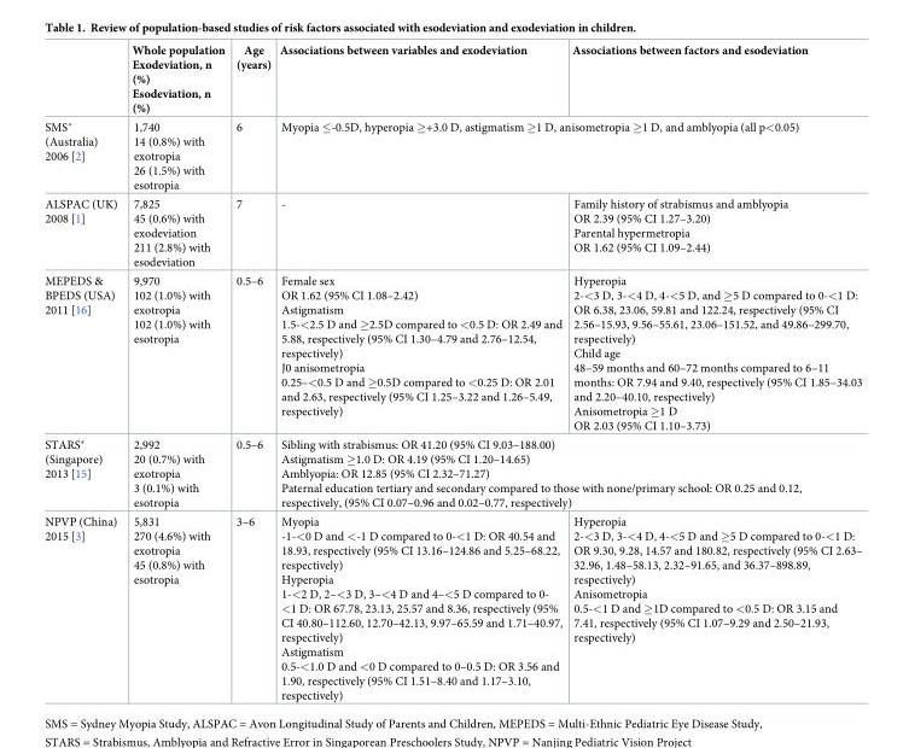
<table><thead><tr><td></td><td>Whole population Exodeviation, n (%) Esodeviation, n (%)</td><td>Age (years)</td><td>Associations between variables and exodeviation</td><td>Associations between factors and esodeviation</td></tr></thead><tbody><tr><td>SMS* (Australia) 2006 [2]</td><td>1,740 14 (0.8%) with exotropia 26 (1.5%) with esotropia</td><td>6</td><td colspan="2">Myopia ≤-0.5D, hyperopia ≥+3.0 D, astigmatism ≥1 D, anisometropia ≥1 D, and amblyopia (all p&lt;0.05)</td></tr><tr><td>ALSPAC (UK) 2008 [1]</td><td>7,825 45 (0.6%) with exodeviation 211 (2.8%) with esodeviation</td><td>7</td><td>-</td><td>Family history of strabismus and amblyopia OR 2.39 (95% CI 1.27–3.20) Parental hypermetropia OR 1.62 (95% CI 1.09–2.44)</td></tr><tr><td>MEPEDS &amp; BPEDS (USA) 2011 [16]</td><td>9,970 102 (1.0%) with exotropia 102 (1.0%) with esotropia</td><td>0.5–6</td><td>Female sex OR 1.62 (95% CI 1.08–2.42) Astigmatism 1.5-&lt;2.5 D and ≥2.5D compared to &lt;0.5 D: OR 2.49 and 5.88, respectively (95% CI 1.30–4.79 and 2.76–12.54, respectively) J0 anisometropia 0.25–&lt;0.5 D and ≥0.5D compared to &lt;0.25 D: OR 2.01 and 2.63, respectively (95% CI 1.25–3.22 and 1.26–5.49, respectively)</td><td>Hyperopia 2-&lt;3 D, 3-&lt;4 D, 4-&lt;5 D, and ≥5 D compared to 0-&lt;1 D: OR 6.38, 23.06, 59.81 and 122.24, respectively (95% CI 2.56–15.93, 9.56–55.61, 23.06–151.52, and 49.86–299.70, respectively) Child age 48–59 months and 60–72 months compared to 6–11 months: OR 7.94 and 9.40, respectively (95% CI 1.85–34.03 and 2.20–40.10, respectively) Anisometropia ≥1 D OR 2.03 (95% CI 1.10–3.73)</td></tr><tr><td>STARS* (Singapore) 2013 [15]</td><td>2,992 20 (0.7%) with exotropia 3 (0.1%) with esotropia</td><td>0.5–6</td><td colspan="2">Sibling with strabismus: OR 41.20 (95% CI 9.03–188.00) Astigmatism ≥1.0 D: OR 4.19 (95% CI 1.20–14.65) Amblyopia: OR 12.85 (95% CI 2.32–71.27) Paternal education tertiary and secondary compared to those with none/primary school: OR 0.25 and 0.12, respectively, (95% CI 0.07–0.96 and 0.02–0.77, respectively)</td></tr><tr><td>NPVP (China) 2015 [3]</td><td>5,831 270 (4.6%) with exotropia 45 (0.8%) with esotropia</td><td>3–6</td><td>Myopia -1-&lt;0 D and &lt;-1 D compared to 0-&lt;1 D: OR 40.54 and 18.93, respectively (95% CI 13.16–124.86 and 5.25–68.22, respectively) Hyperopia 1-&lt;2 D, 2–&lt;3 D, 3–&lt;4 D and 4–&lt;5 D compared to 0- &lt;1 D: OR 67.78, 23.13, 25.57 and 8.36, respectively (95% CI 40.80–112.60, 12.70–42.13, 9.97–65.59 and 1.71–40.97, respectively) Astigmatism 0.5-&lt;1.0 D and &lt;0 D compared to 0–0.5 D: OR 3.56 and 1.90, respectively (95% CI 1.51–8.40 and 1.17–3.10, respectively)</td><td>Hyperopia 2-&lt;3 D, 3-&lt;4 D, 4-&lt;5 D and ≥5 D compared to 0-&lt;1 D: OR 9.30, 9.28, 14.57 and 180.82, respectively (95% CI 2.63– 32.96, 1.48–58.13, 2.32–91.65, and 36.37–898.89, respectively) Anisometropia 0.5-&lt;1 D and ≥1D compared to &lt;0.5 D: OR 3.15 and 7.41, respectively (95% CI 1.07–9.29 and 2.50–21.93, respectively)</td></tr></tbody></table>